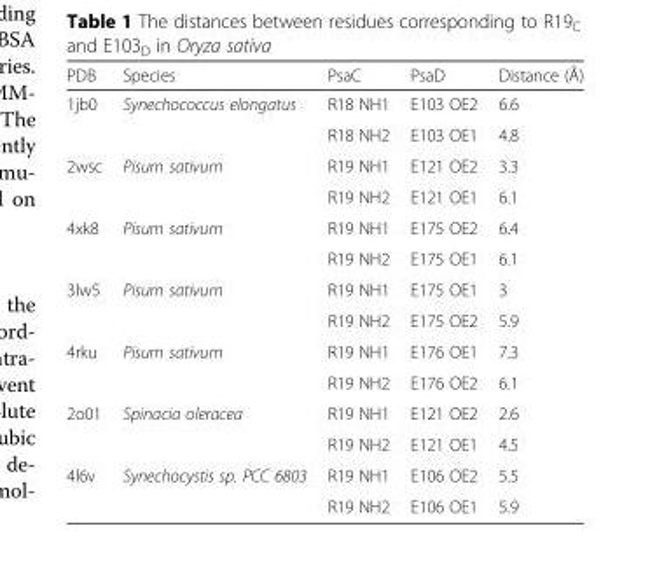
<table><thead><tr><td>PDB</td><td>Species</td><td>PsaC</td><td>PsaD</td><td>Distance (Å)</td></tr></thead><tbody><tr><td rowspan="2">1jb0</td><td>Synechococcus elongatus</td><td>R18 NH1</td><td>E103 OE2</td><td>6.6</td></tr><tr><td></td><td>R18 NH2</td><td>E103 OE1</td><td>4.8</td></tr><tr><td rowspan="2">2wsc</td><td>Pisum sativum</td><td>R19 NH1</td><td>E121 OE2</td><td>3.3</td></tr><tr><td></td><td>R19 NH2</td><td>E121 OE1</td><td>6.1</td></tr><tr><td rowspan="2">4xk8</td><td>Pisum sativum</td><td>R19 NH1</td><td>E175 OE2</td><td>6.4</td></tr><tr><td></td><td>R19 NH2</td><td>E175 OE1</td><td>6.1</td></tr><tr><td rowspan="2">3lw5</td><td>Pisum sativum</td><td>R19 NH1</td><td>E175 OE1</td><td>3</td></tr><tr><td></td><td>R19 NH2</td><td>E175 OE2</td><td>5.9</td></tr><tr><td rowspan="2">4rku</td><td>Pisum sativum</td><td>R19 NH1</td><td>E176 OE1</td><td>7.3</td></tr><tr><td></td><td>R19 NH2</td><td>E176 OE2</td><td>6.1</td></tr><tr><td rowspan="2">2o01</td><td>Spinacia oleracea</td><td>R19 NH1</td><td>E121 OE2</td><td>2.6</td></tr><tr><td></td><td>R19 NH2</td><td>E121 OE1</td><td>4.5</td></tr><tr><td rowspan="2">4l6v</td><td>Synechocystis sp. PCC 6803</td><td>R19 NH1</td><td>E106 OE2</td><td>5.5</td></tr><tr><td></td><td>R19 NH2</td><td>E106 OE1</td><td>5.9</td></tr></tbody></table>